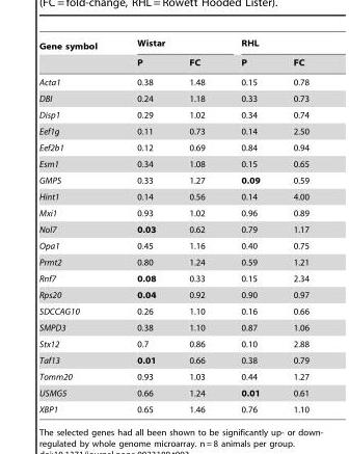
<table><thead><tr><td rowspan="2">Gene symbol</td><td colspan="2">Wistar</td><td colspan="2">RHL</td></tr><tr><td>P</td><td>FC</td><td>P</td><td>FC</td></tr></thead><tbody><tr><td>Acta1</td><td>0.38</td><td>1.48</td><td>0.15</td><td>0.78</td></tr><tr><td>DBI</td><td>0.24</td><td>1.18</td><td>0.33</td><td>0.73</td></tr><tr><td>Disp1</td><td>0.29</td><td>1.02</td><td>0.34</td><td>0.74</td></tr><tr><td>Eef1g</td><td>0.11</td><td>0.73</td><td>0.14</td><td>2.50</td></tr><tr><td>Eef2b1</td><td>0.12</td><td>0.69</td><td>0.84</td><td>0.94</td></tr><tr><td>Esm1</td><td>0.34</td><td>1.08</td><td>0.15</td><td>0.65</td></tr><tr><td>GMPS</td><td>0.33</td><td>1.27</td><td>0.09</td><td>0.59</td></tr><tr><td>Hint1</td><td>0.14</td><td>0.56</td><td>0.14</td><td>4.00</td></tr><tr><td>Mxi1</td><td>0.93</td><td>1.02</td><td>0.96</td><td>0.89</td></tr><tr><td>Nol7</td><td>0.03</td><td>0.62</td><td>0.79</td><td>1.17</td></tr><tr><td>Opa1</td><td>0.45</td><td>1.16</td><td>0.40</td><td>0.75</td></tr><tr><td>Prmt2</td><td>0.80</td><td>1.24</td><td>0.59</td><td>1.21</td></tr><tr><td>Rnf7</td><td>0.08</td><td>0.33</td><td>0.15</td><td>2.34</td></tr><tr><td>Rps20</td><td>0.04</td><td>0.92</td><td>0.90</td><td>0.97</td></tr><tr><td>SDCCAG10</td><td>0.26</td><td>1.10</td><td>0.16</td><td>0.66</td></tr><tr><td>SMPD3</td><td>0.38</td><td>1.10</td><td>0.87</td><td>1.06</td></tr><tr><td>Stx12</td><td>0.7</td><td>0.86</td><td>0.10</td><td>2.88</td></tr><tr><td>Taf13</td><td>0.01</td><td>0.66</td><td>0.38</td><td>0.79</td></tr><tr><td>Tomm20</td><td>0.93</td><td>1.03</td><td>0.44</td><td>1.27</td></tr><tr><td>USMG5</td><td>0.66</td><td>1.24</td><td>0.01</td><td>0.61</td></tr><tr><td>XBP1</td><td>0.65</td><td>1.46</td><td>0.76</td><td>1.10</td></tr></tbody></table>